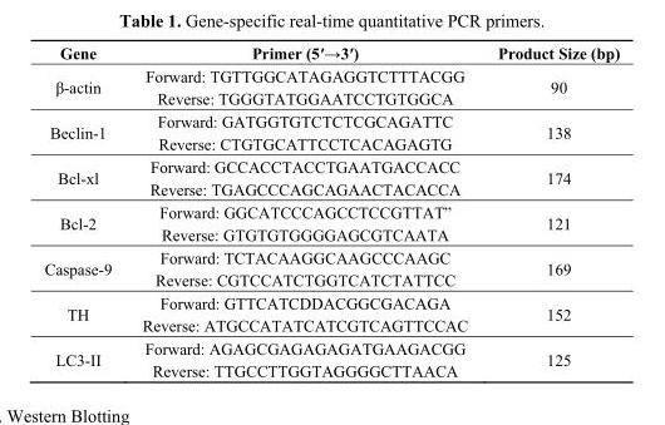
<table><thead><tr><td>Gene</td><td>Primer (5′→3′)</td><td>Product Size (bp)</td></tr></thead><tbody><tr><td>β-actin</td><td>Forward: TGTTGGCATAGAGGTCTTTACGG Reverse: TGGGTATGGAATCCTGTGGCA</td><td>90</td></tr><tr><td>Beclin-1</td><td>Forward: GATGGTGTCTCTCGCAGATTC Reverse: CTGTGCATTCCTCACAGAGTG</td><td>138</td></tr><tr><td>Bcl-xl</td><td>Forward: GCCACCTACCTGAATGACCACC Reverse: TGAGCCCAGCAGAACTACACCA</td><td>174</td></tr><tr><td>Bcl-2</td><td>Forward: GGCATCCCAGCCTCCGTTAT” Reverse: GTGTGTGGGGAGCGTCAATA</td><td>121</td></tr><tr><td>Caspase-9</td><td>Forward: TCTACAAGGCAAGCCCAAGC Reverse: CGTCCATCTGGTCATCTATTCC</td><td>169</td></tr><tr><td>TH</td><td>Forward: GTTCATCDDACGGCGACAGA Reverse: ATGCCATATCATCGTCAGTTCCAC</td><td>152</td></tr><tr><td>LC3-II</td><td>Forward: AGAGCGAGAGAGATGAAGACGG Reverse: TTGCCTTGGTAGGGGCTTAACA</td><td>125</td></tr></tbody></table>